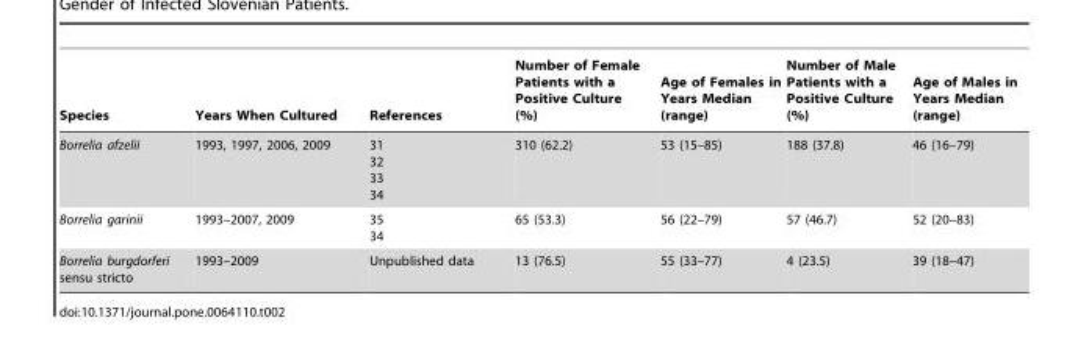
<table><thead><tr><td>Species</td><td>Years When Cultured</td><td>References</td><td>Number of Female Patients with a Positive Culture (%)</td><td>Age of Females in Years Median (range)</td><td>Number of Male Patients with a Positive Culture (%)</td><td>Age of Males in Years Median (range)</td></tr></thead><tbody><tr><td>Borrelia afzelii</td><td>1993, 1997, 2006, 2009</td><td>31 32 33 34</td><td>310 (62.2)</td><td>53 (15–85)</td><td>188 (37.8)</td><td>46 (16–79)</td></tr><tr><td>Borrelia garinii</td><td>1993–2007, 2009</td><td>35 34</td><td>65 (53.3)</td><td>56 (22–79)</td><td>57 (46.7)</td><td>52 (20–83)</td></tr><tr><td>Borrelia burgdorferi sensu stricto</td><td>1993–2009</td><td>Unpublished data</td><td>13 (76.5)</td><td>55 (33–77)</td><td>4 (23.5)</td><td>39 (18–47)</td></tr></tbody></table>